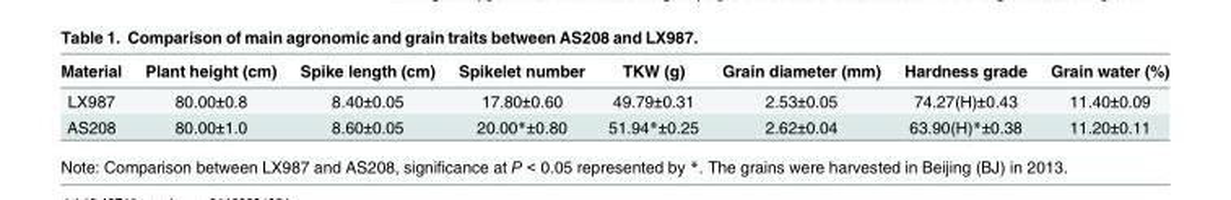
<table><thead><tr><td>Material</td><td>Plant height (cm)</td><td>Spike length (cm)</td><td>Spikelet number</td><td>TKW (g)</td><td>Grain diameter (mm)</td><td>Hardness grade</td><td>Grain water (%)</td></tr></thead><tbody><tr><td>LX987</td><td>80.00±0.8</td><td>8.40±0.05</td><td>17.80±0.60</td><td>49.79±0.31</td><td>2.53±0.05</td><td>74.27(H)±0.43</td><td>11.40±0.09</td></tr><tr><td>AS208</td><td>80.00±1.0</td><td>8.60±0.05</td><td>20.00*±0.80</td><td>51.94*±0.25</td><td>2.62±0.04</td><td>63.90(H)*±0.38</td><td>11.20±0.11</td></tr></tbody></table>